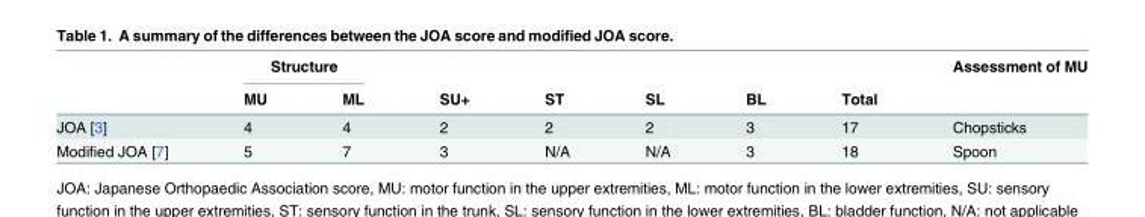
<table><thead><tr><td rowspan="2"></td><td colspan="2">Structure</td><td rowspan="2">SU+</td><td rowspan="2">ST</td><td rowspan="2">SL</td><td rowspan="2">BL</td><td rowspan="2">Total</td><td rowspan="2">Assessment of MU</td></tr><tr><td>MU</td><td>ML</td></tr></thead><tbody><tr><td>JOA [3]</td><td>4</td><td>4</td><td>2</td><td>2</td><td>2</td><td>3</td><td>17</td><td>Chopsticks</td></tr><tr><td>Modified JOA [7]</td><td>5</td><td>7</td><td>3</td><td>N/A</td><td>N/A</td><td>3</td><td>18</td><td>Spoon</td></tr></tbody></table>